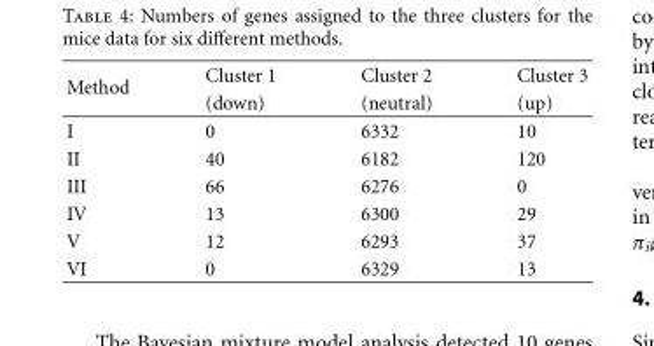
<table><thead><tr><td rowspan="2">Method</td><td rowspan="2">Cluster 1 (down)</td><td rowspan="2">Cluster 2 (neutral)</td><td rowspan="2">Cluster 3 (up)</td></tr><tr></tr></thead><tbody><tr><td>I</td><td>0</td><td>6332</td><td>10</td></tr><tr><td>II</td><td>40</td><td>6182</td><td>120</td></tr><tr><td>III</td><td>66</td><td>6276</td><td>0</td></tr><tr><td>IV</td><td>13</td><td>6300</td><td>29</td></tr><tr><td>V</td><td>12</td><td>6293</td><td>37</td></tr><tr><td>VI</td><td>0</td><td>6329</td><td>13</td></tr></tbody></table>